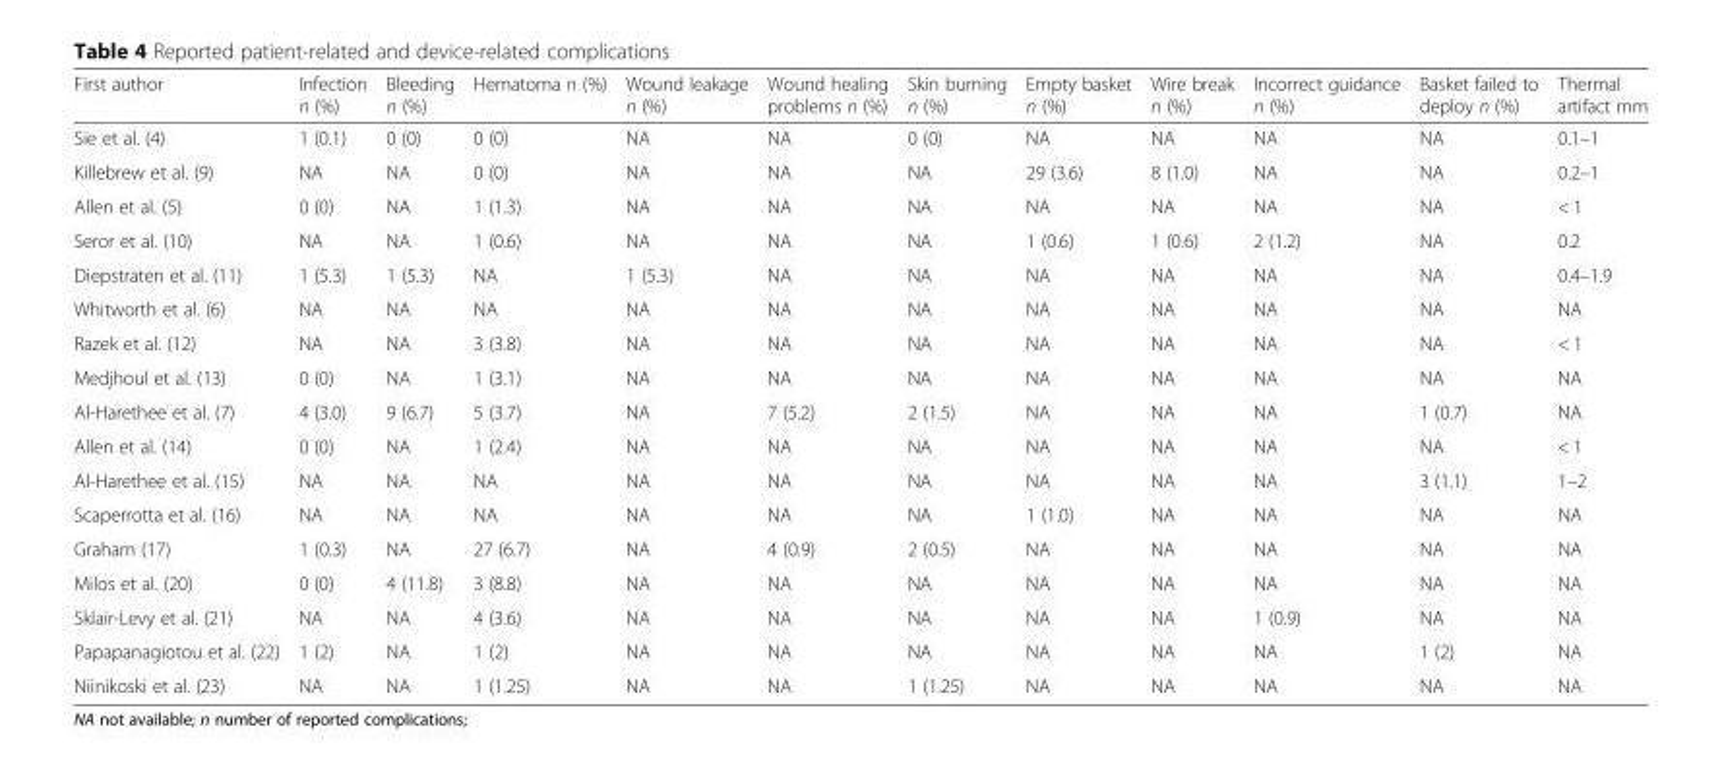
<table><thead><tr><td>First author</td><td>Infection n (%)</td><td>Bleeding n (%)</td><td>Hematoma n (%)</td><td>Wound leakage n (%)</td><td>Wound healing problems n (%)</td><td>Skin burning n (%)</td><td>Empty basket n (%)</td><td>Wire break n (%)</td><td>Incorrect guidance n (%)</td><td>Basket failed to deploy n (%)</td><td>Thermal artifact mm</td></tr></thead><tbody><tr><td>Sie et al. (4)</td><td>1 (0.1)</td><td>0 (0)</td><td>0 (0)</td><td>NA</td><td>NA</td><td>0 (0)</td><td>NA</td><td>NA</td><td>NA</td><td>NA</td><td>0.1–1</td></tr><tr><td>Killebrew et al. (9)</td><td>NA</td><td>NA</td><td>0 (0)</td><td>NA</td><td>NA</td><td>NA</td><td>29 (3.6)</td><td>8 (1.0)</td><td>NA</td><td>NA</td><td>0.2–1</td></tr><tr><td>Allen et al. (5)</td><td>0 (0)</td><td>NA</td><td>1 (1.3)</td><td>NA</td><td>NA</td><td>NA</td><td>NA</td><td>NA</td><td>NA</td><td>NA</td><td>&lt; 1</td></tr><tr><td>Seror et al. (10)</td><td>NA</td><td>NA</td><td>1 (0.6)</td><td>NA</td><td>NA</td><td>NA</td><td>1 (0.6)</td><td>1 (0.6)</td><td>2 (1.2)</td><td>NA</td><td>0.2</td></tr><tr><td>Diepstraten et al. (11)</td><td>1 (5.3)</td><td>1 (5.3)</td><td>NA</td><td>1 (5.3)</td><td>NA</td><td>NA</td><td>NA</td><td>NA</td><td>NA</td><td>NA</td><td>0.4–1.9</td></tr><tr><td>Whitworth et al. (6)</td><td>NA</td><td>NA</td><td>NA</td><td>NA</td><td>NA</td><td>NA</td><td>NA</td><td>NA</td><td>NA</td><td>NA</td><td>NA</td></tr><tr><td>Razek et al. (12)</td><td>NA</td><td>NA</td><td>3 (3.8)</td><td>NA</td><td>NA</td><td>NA</td><td>NA</td><td>NA</td><td>NA</td><td>NA</td><td>&lt; 1</td></tr><tr><td>Medjhoul et al. (13)</td><td>0 (0)</td><td>NA</td><td>1 (3.1)</td><td>NA</td><td>NA</td><td>NA</td><td>NA</td><td>NA</td><td>NA</td><td>NA</td><td>NA</td></tr><tr><td>Al-Harethee et al. (7)</td><td>4 (3.0)</td><td>9 (6.7)</td><td>5 (3.7)</td><td>NA</td><td>7 (5.2)</td><td>2 (1.5)</td><td>NA</td><td>NA</td><td>NA</td><td>1 (0.7)</td><td>NA</td></tr><tr><td>Allen et al. (14)</td><td>0 (0)</td><td>NA</td><td>1 (2.4)</td><td>NA</td><td>NA</td><td>NA</td><td>NA</td><td>NA</td><td>NA</td><td>NA</td><td>&lt; 1</td></tr><tr><td>Al-Harethee et al. (15)</td><td>NA</td><td>NA</td><td>NA</td><td>NA</td><td>NA</td><td>NA</td><td>NA</td><td>NA</td><td>NA</td><td>3 (1.1)</td><td>1–2</td></tr><tr><td>Scaperrotta et al. (16)</td><td>NA</td><td>NA</td><td>NA</td><td>NA</td><td>NA</td><td>NA</td><td>1 (1.0)</td><td>NA</td><td>NA</td><td>NA</td><td>NA</td></tr><tr><td>Graham (17)</td><td>1 (0.3)</td><td>NA</td><td>27 (6.7)</td><td>NA</td><td>4 (0.9)</td><td>2 (0.5)</td><td>NA</td><td>NA</td><td>NA</td><td>NA</td><td>NA</td></tr><tr><td>Milos et al. (20)</td><td>0 (0)</td><td>4 (11.8)</td><td>3 (8.8)</td><td>NA</td><td>NA</td><td>NA</td><td>NA</td><td>NA</td><td>NA</td><td>NA</td><td>NA</td></tr><tr><td>Sklair-Levy et al. (21)</td><td>NA</td><td>NA</td><td>4 (3.6)</td><td>NA</td><td>NA</td><td>NA</td><td>NA</td><td>NA</td><td>1 (0.9)</td><td>NA</td><td>NA</td></tr><tr><td>Papapanagiotou et al. (22)</td><td>1 (2)</td><td>NA</td><td>1 (2)</td><td>NA</td><td>NA</td><td>NA</td><td>NA</td><td>NA</td><td>NA</td><td>1 (2)</td><td>NA</td></tr><tr><td>Niinikoski et al. (23)</td><td>NA</td><td>NA</td><td>1 (1.25)</td><td>NA</td><td>NA</td><td>1 (1.25)</td><td>NA</td><td>NA</td><td>NA</td><td>NA</td><td>NA</td></tr></tbody></table>